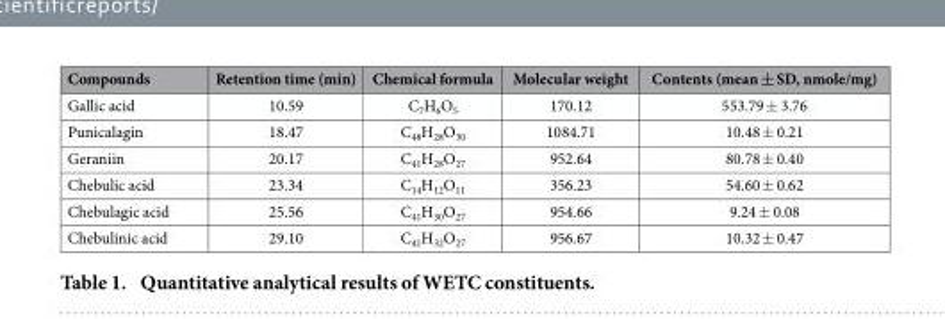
<table><thead><tr><td>Compounds</td><td>Retention time (min)</td><td>Chemical formula</td><td>Molecular weight</td><td>Contents (mean ± SD, nmole/mg)</td></tr></thead><tbody><tr><td>Gallic acid</td><td>10.59</td><td>C<sub>7</sub>H<sub>6</sub>O<sub>5</sub></td><td>170.12</td><td>553.79 ± 3.76</td></tr><tr><td>Punicalagin</td><td>18.47</td><td>C<sub>48</sub>H<sub>28</sub>O<sub>30</sub></td><td>1084.71</td><td>10.48 ± 0.21</td></tr><tr><td>Geraniin</td><td>20.17</td><td>C<sub>41</sub>H<sub>28</sub>O<sub>27</sub></td><td>952.64</td><td>80.78 ± 0.40</td></tr><tr><td>Chebulic acid</td><td>23.34</td><td>C<sub>14</sub>H<sub>12</sub>O<sub>11</sub></td><td>356.23</td><td>54.60 ± 0.62</td></tr><tr><td>Chebulagic acid</td><td>25.56</td><td>C<sub>41</sub>H<sub>30</sub>O<sub>27</sub></td><td>954.66</td><td>9.24 ± 0.08</td></tr><tr><td>Chebulinic acid</td><td>29.10</td><td>C<sub>41</sub>H<sub>32</sub>O<sub>27</sub></td><td>956.67</td><td>10.32 ± 0.47</td></tr></tbody></table>